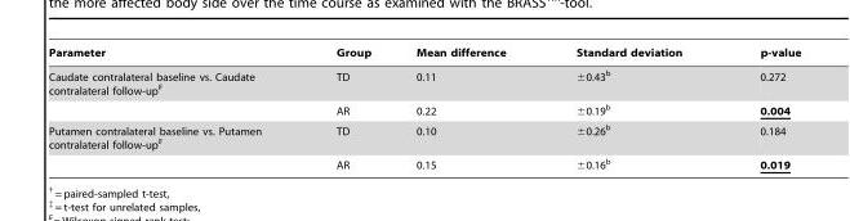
<table><thead><tr><td>Parameter</td><td>Group</td><td>Mean difference</td><td>Standard deviation</td><td>p-value</td></tr></thead><tbody><tr><td rowspan="2">Caudate contralateral baseline vs. Caudate contralateral follow-upF-</td><td>TD</td><td>0.11</td><td>±0.43<sup>b</sup></td><td>0.272</td></tr><tr><td>AR</td><td>0.22</td><td>±0.19<sup>b</sup></td><td>0.004</td></tr><tr><td rowspan="2">Putamen contralateral baseline vs. Putamen contralateral follow-upF-</td><td>TD</td><td>0.10</td><td>±0.26<sup>b</sup></td><td>0.184</td></tr><tr><td>AR</td><td>0.15</td><td>±0.16<sup>b</sup></td><td>0.019</td></tr></tbody></table>